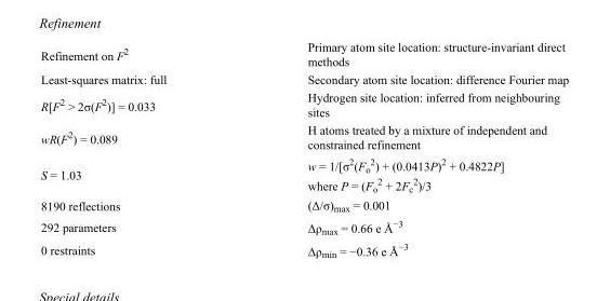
<table><tbody><tr><td>Refinement on F<sup>2</sup></td><td>Primary atom site location: structure-invariant direct methods</td></tr><tr><td>Least-squares matrix: full</td><td>Secondary atom site location: difference Fourier map</td></tr><tr><td>R[F<sup>2</sup> &gt; 2σ(F<sup>2</sup>)] = 0.033</td><td>Hydrogen site location: inferred from neighbouring sites</td></tr><tr><td>wR(F<sup>2</sup>) = 0.089</td><td>H atoms treated by a mixture of independent and constrained refinement</td></tr><tr><td>S = 1.03</td><td>w = 1/[σ<sup>2</sup>(F<sub>o</sub> <sup>2</sup>) + (0.0413P)<sup>2</sup> + 0.4822P] where P = (F<sub>o</sub> <sup>2</sup> + 2F<sub>c</sub> <sup>2</sup>)/3</td></tr><tr><td>8190 reflections</td><td>(Δ/σ)<sub>max</sub> = 0.001</td></tr><tr><td>292 parameters</td><td>Δρ<sub>max</sub> = 0.66 e Å<sup>−3</sup></td></tr><tr><td>0 restraints</td><td>Δρ<sub>min</sub> = −0.36 e Å<sup>−3</sup></td></tr></tbody></table>